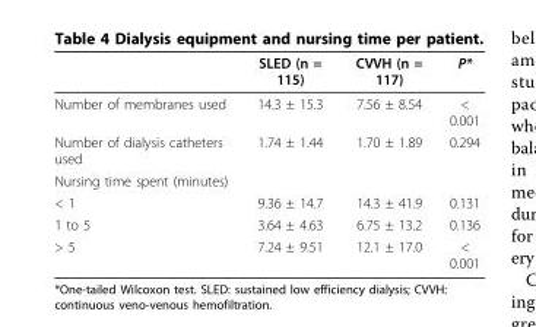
<table><thead><tr><td></td><td>SLED (n = 115)</td><td>CVVH (n = 117)</td><td>P*</td></tr></thead><tbody><tr><td>Number of membranes used</td><td>14.3 ± 15.3</td><td>7.56 ± 8.54</td><td>&lt; 0.001</td></tr><tr><td>Number of dialysis catheters used</td><td>1.74 ± 1.44</td><td>1.70 ± 1.89</td><td>0.294</td></tr><tr><td colspan="4">Nursing time spent (minutes)</td></tr><tr><td>&lt; 1</td><td>9.36 ± 14.7</td><td>14.3 ± 41.9</td><td>0.131</td></tr><tr><td>1 to 5</td><td>3.64 ± 4.63</td><td>6.75 ± 13.2</td><td>0.136</td></tr><tr><td>&gt; 5</td><td>7.24 ± 9.51</td><td>12.1 ± 17.0</td><td>&lt; 0.001</td></tr></tbody></table>